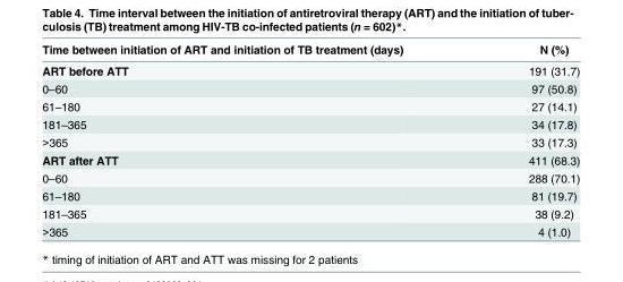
<table><thead><tr><td>Time between initiation of ART and initiation of TB treatment (days)</td><td>N (%)</td></tr></thead><tbody><tr><td>ART before ATT</td><td>191 (31.7)</td></tr><tr><td>0–60</td><td>97 (50.8)</td></tr><tr><td>61–180</td><td>27 (14.1)</td></tr><tr><td>181–365</td><td>34 (17.8)</td></tr><tr><td>&gt;365</td><td>33 (17.3)</td></tr><tr><td>ART after ATT</td><td>411 (68.3)</td></tr><tr><td>0–60</td><td>288 (70.1)</td></tr><tr><td>61–180</td><td>81 (19.7)</td></tr><tr><td>181–365</td><td>38 (9.2)</td></tr><tr><td>&gt;365</td><td>4 (1.0)</td></tr></tbody></table>